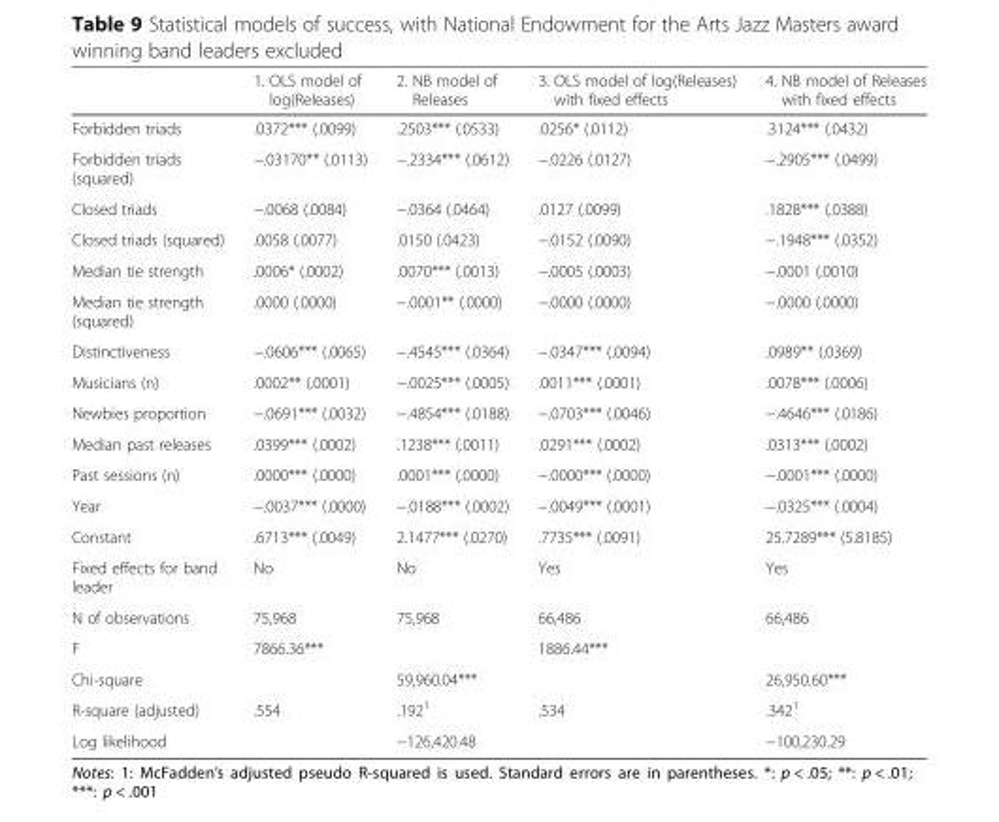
<table><thead><tr><td></td><td>1. OLS model of log(Releases)</td><td>2. NB model of Releases</td><td>3. OLS model of log(Releases) with fixed effects</td><td>4. NB model of Releases with fixed effects</td></tr></thead><tbody><tr><td>Forbidden triads</td><td>.0372*** (.0099)</td><td>.2503*** (.0533)</td><td>.0256* (.0112)</td><td>.3124*** (.0432)</td></tr><tr><td>Forbidden triads (squared)</td><td>−.03170** (.0113)</td><td>−.2334*** (.0612)</td><td>−.0226 (.0127)</td><td>−.2905*** (.0499)</td></tr><tr><td>Closed triads</td><td>−.0068 (.0084)</td><td>−.0364 (.0464)</td><td>.0127 (.0099)</td><td>.1828*** (.0388)</td></tr><tr><td>Closed triads (squared)</td><td>.0058 (.0077)</td><td>.0150 (.0423)</td><td>−.0152 (.0090)</td><td>−.1948*** (.0352)</td></tr><tr><td>Median tie strength</td><td>.0006* (.0002)</td><td>.0070*** (.0013)</td><td>−.0005 (.0003)</td><td>−.0001 (.0010)</td></tr><tr><td>Median tie strength (squared)</td><td>.0000 (.0000)</td><td>−.0001** (.0000)</td><td>−.0000 (.0000)</td><td>−.0000 (.0000)</td></tr><tr><td>Distinctiveness</td><td>−.0606*** (.0065)</td><td>−.4545*** (.0364)</td><td>−.0347*** (.0094)</td><td>.0989** (.0369)</td></tr><tr><td>Musicians (n)</td><td>.0002** (.0001)</td><td>−.0025*** (.0005)</td><td>.0011*** (.0001)</td><td>.0078*** (.0006)</td></tr><tr><td>Newbies proportion</td><td>−.0691*** (.0032)</td><td>−.4854*** (.0188)</td><td>−.0703*** (.0046)</td><td>−.4646*** (.0186)</td></tr><tr><td>Median past releases</td><td>.0399*** (.0002)</td><td>.1238*** (.0011)</td><td>.0291*** (.0002)</td><td>.0313*** (.0002)</td></tr><tr><td>Past sessions (n)</td><td>.0000*** (.0000)</td><td>.0001*** (.0000)</td><td>−.0000*** (.0000)</td><td>−.0001*** (.0000)</td></tr><tr><td>Year</td><td>−.0037*** (.0000)</td><td>−.0188*** (.0002)</td><td>−.0049*** (.0001)</td><td>−.0325*** (.0004)</td></tr><tr><td>Constant</td><td>.6713*** (.0049)</td><td>2.1477*** (.0270)</td><td>.7735*** (.0091)</td><td>25.7289*** (5.8185)</td></tr><tr><td>Fixed effects for band leader</td><td>No</td><td>No</td><td>Yes</td><td>Yes</td></tr><tr><td>N of observations</td><td>75,968</td><td>75,968</td><td>66,486</td><td>66,486</td></tr><tr><td>F</td><td>7866.36***</td><td></td><td>1886.44***</td><td></td></tr><tr><td>Chi-square</td><td></td><td>59,960.04***</td><td></td><td>26,950.60***</td></tr><tr><td>R-square (adjusted)</td><td>.554</td><td>.192<sup>1</sup></td><td>.534</td><td>.342<sup>1</sup></td></tr><tr><td>Log likelihood</td><td></td><td>−126,420.48</td><td></td><td>−100,230.29</td></tr></tbody></table>